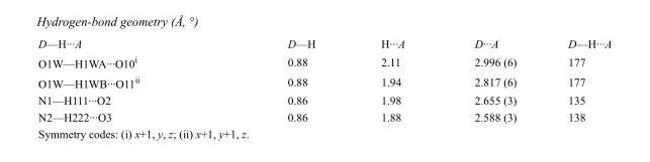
<table><tbody><tr><td>D—H···A</td><td>D—H</td><td>H···A</td><td>D···A</td><td>D—H···A</td></tr><tr><td>O1W—H1WA···O10<sup>i</sup></td><td>0.88</td><td>2.11</td><td>2.996 (6)</td><td>177</td></tr><tr><td>O1W—H1WB···O11<sup>ii</sup></td><td>0.88</td><td>1.94</td><td>2.817 (6)</td><td>177</td></tr><tr><td>N1—H111···O2</td><td>0.86</td><td>1.98</td><td>2.655 (3)</td><td>135</td></tr><tr><td>N2—H222···O3</td><td>0.86</td><td>1.88</td><td>2.588 (3)</td><td>138</td></tr></tbody></table>